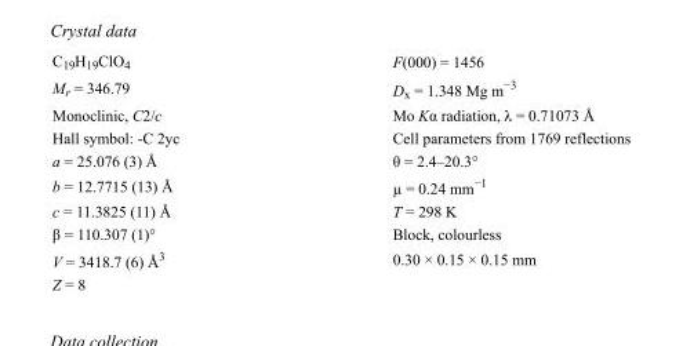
<table><tbody><tr><td>C<sub>19</sub>H<sub>19</sub>ClO<sub>4</sub></td><td>F(000) = 1456</td></tr><tr><td>M<sub>r</sub> = 346.79</td><td>D<sub>x</sub> = 1.348 Mg m<sup>−3</sup></td></tr><tr><td>Monoclinic, C2/c</td><td>Mo Kα radiation, λ = 0.71073 Å</td></tr><tr><td>Hall symbol: -C 2yc</td><td>Cell parameters from 1769 reflections</td></tr><tr><td>a = 25.076 (3) Å</td><td>θ = 2.4–20.3°</td></tr><tr><td>b = 12.7715 (13) Å</td><td>µ = 0.24 mm<sup>−1</sup></td></tr><tr><td>c = 11.3825 (11) Å</td><td>T = 298 K</td></tr><tr><td>β = 110.307 (1)°</td><td>Block, colourless</td></tr><tr><td>V = 3418.7 (6) Å<sup>3</sup></td><td>0.30 × 0.15 × 0.15 mm</td></tr><tr><td>Z = 8</td><td></td></tr></tbody></table>